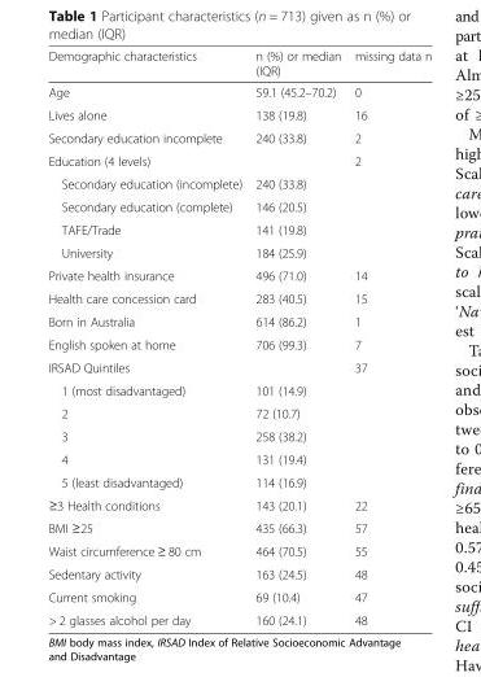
<table><thead><tr><td>Demographic characteristics</td><td>n (%) or median (IQR)</td><td>missing data n</td></tr></thead><tbody><tr><td>Age</td><td>59.1 (45.2–70.2)</td><td>0</td></tr><tr><td>Lives alone</td><td>138 (19.8)</td><td>16</td></tr><tr><td>Secondary education incomplete</td><td>240 (33.8)</td><td>2</td></tr><tr><td>Education (4 levels)</td><td></td><td>2</td></tr><tr><td>Secondary education (incomplete)</td><td>240 (33.8)</td><td></td></tr><tr><td>Secondary education (complete)</td><td>146 (20.5)</td><td></td></tr><tr><td>TAFE/Trade</td><td>141 (19.8)</td><td></td></tr><tr><td>University</td><td>184 (25.9)</td><td></td></tr><tr><td>Private health insurance</td><td>496 (71.0)</td><td>14</td></tr><tr><td>Health care concession card</td><td>283 (40.5)</td><td>15</td></tr><tr><td>Born in Australia</td><td>614 (86.2)</td><td>1</td></tr><tr><td>English spoken at home</td><td>706 (99.3)</td><td>7</td></tr><tr><td>IRSAD Quintiles</td><td></td><td>37</td></tr><tr><td>1 (most disadvantaged)</td><td>101 (14.9)</td><td></td></tr><tr><td>2</td><td>72 (10.7)</td><td></td></tr><tr><td>3</td><td>258 (38.2)</td><td></td></tr><tr><td>4</td><td>131 (19.4)</td><td></td></tr><tr><td>5 (least disadvantaged)</td><td>114 (16.9)</td><td></td></tr><tr><td>≥3 Health conditions</td><td>143 (20.1)</td><td>22</td></tr><tr><td>BMI ≥25</td><td>435 (66.3)</td><td>57</td></tr><tr><td>Waist circumference ≥ 80 cm</td><td>464 (70.5)</td><td>55</td></tr><tr><td>Sedentary activity</td><td>163 (24.5)</td><td>48</td></tr><tr><td>Current smoking</td><td>69 (10.4)</td><td>47</td></tr><tr><td>&gt; 2 glasses alcohol per day</td><td>160 (24.1)</td><td>48</td></tr></tbody></table>